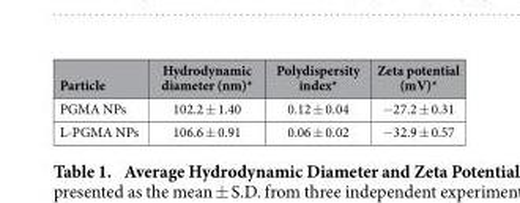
<table><thead><tr><td>Particle</td><td>Hydrodynamic diameter (nm)*</td><td>Polydispersity index*</td><td>Zeta potential (mV)*</td></tr></thead><tbody><tr><td>PGMA NPs</td><td>102.2 ± 1.40</td><td>0.12 ± 0.04</td><td>− 27.2 ± 0.31</td></tr><tr><td>L-PGMA NPs</td><td>106.6 ± 0.91</td><td>0.06 ± 0.02</td><td>− 32.9 ± 0.57</td></tr></tbody></table>